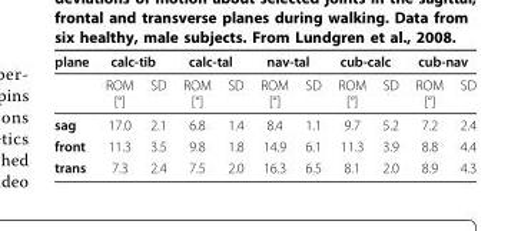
<table><thead><tr><td rowspan="2">plane</td><td colspan="2">calc-tib</td><td colspan="2">calc-tal</td><td colspan="2">nav-tal</td><td colspan="2">cub-calc</td><td colspan="2">cub-nav</td></tr><tr><td>ROM [°]</td><td>SD</td><td>ROM [°]</td><td>SD</td><td>ROM [°]</td><td>SD</td><td>ROM [°]</td><td>SD</td><td>ROM [°]</td><td>SD</td></tr></thead><tbody><tr><td>sag</td><td>17.0</td><td>2.1</td><td>6.8</td><td>1.4</td><td>8.4</td><td>1.1</td><td>9.7</td><td>5.2</td><td>7.2</td><td>2.4</td></tr><tr><td>front</td><td>11.3</td><td>3.5</td><td>9.8</td><td>1.8</td><td>14.9</td><td>6.1</td><td>11.3</td><td>3.9</td><td>8.8</td><td>4.4</td></tr><tr><td>trans</td><td>7.3</td><td>2.4</td><td>7.5</td><td>2.0</td><td>16.3</td><td>6.5</td><td>8.1</td><td>2.0</td><td>8.9</td><td>4.3</td></tr></tbody></table>